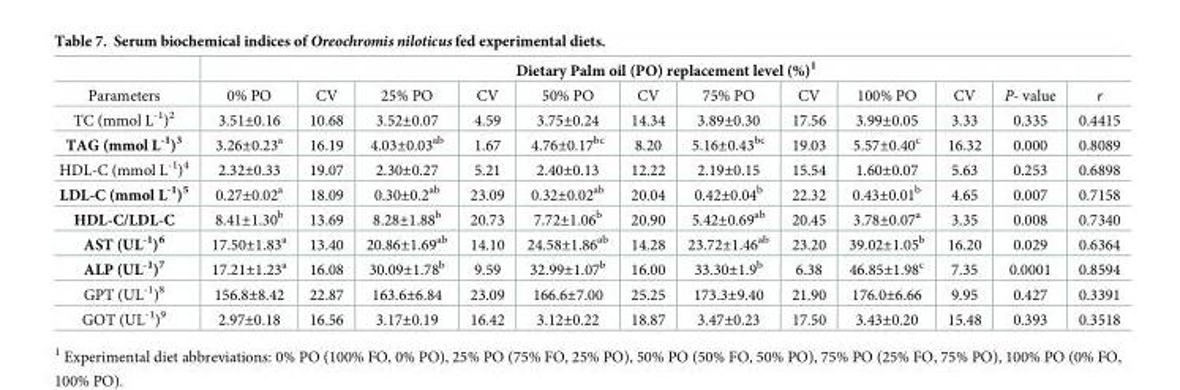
<table><thead><tr><td rowspan="2">Parameters</td><td colspan="12">Dietary Palm oil (PO) replacement level (%)<sup>1</sup></td></tr><tr><td>0% PO</td><td>CV</td><td>25% PO</td><td>CV</td><td>50% PO</td><td>CV</td><td>75% PO</td><td>CV</td><td>100% PO</td><td>CV</td><td>P- value</td><td>r</td></tr></thead><tbody><tr><td>TC (mmol L<sup>-1</sup>)<sup>2</sup></td><td>3.51±0.16</td><td>10.68</td><td>3.52±0.07</td><td>4.59</td><td>3.75±0.24</td><td>14.34</td><td>3.89±0.30</td><td>17.56</td><td>3.99±0.05</td><td>3.33</td><td>0.335</td><td>0.4415</td></tr><tr><td>TAG (mmol L<sup>-1</sup>)<sup>3</sup></td><td>3.26±0.23<sup>a</sup></td><td>16.19</td><td>4.03±0.03<sup>ab</sup></td><td>1.67</td><td>4.76±0.17<sup>bc</sup></td><td>8.20</td><td>5.16±0.43<sup>bc</sup></td><td>19.03</td><td>5.57±0.40<sup>c</sup></td><td>16.32</td><td>0.000</td><td>0.8089</td></tr><tr><td>HDL-C (mmol L<sup>-1</sup>)<sup>4</sup></td><td>2.32±0.33</td><td>19.07</td><td>2.30±0.27</td><td>5.21</td><td>2.40±0.13</td><td>12.22</td><td>2.19±0.15</td><td>15.54</td><td>1.60±0.07</td><td>5.63</td><td>0.253</td><td>0.6898</td></tr><tr><td>LDL-C (mmol L<sup>-1</sup>)<sup>5</sup></td><td>0.27±0.02<sup>a</sup></td><td>18.09</td><td>0.30±0.2<sup>ab</sup></td><td>23.09</td><td>0.32±0.02<sup>ab</sup></td><td>20.04</td><td>0.42±0.04<sup>b</sup></td><td>22.32</td><td>0.43±0.01<sup>b</sup></td><td>4.65</td><td>0.007</td><td>0.7158</td></tr><tr><td>HDL-C/LDL-C</td><td>8.41±1.30<sup>b</sup></td><td>13.69</td><td>8.28±1.88<sup>b</sup></td><td>20.73</td><td>7.72±1.06<sup>b</sup></td><td>20.90</td><td>5.42±0.69<sup>ab</sup></td><td>20.45</td><td>3.78±0.07<sup>a</sup></td><td>3.35</td><td>0.008</td><td>0.7340</td></tr><tr><td>AST (UL<sup>-1</sup>)<sup>6</sup></td><td>17.50±1.83<sup>a</sup></td><td>13.40</td><td>20.86±1.69<sup>ab</sup></td><td>14.10</td><td>24.58±1.86<sup>ab</sup></td><td>14.28</td><td>23.72±1.46<sup>ab</sup></td><td>23.20</td><td>39.02±1.05<sup>b</sup></td><td>16.20</td><td>0.029</td><td>0.6364</td></tr><tr><td>ALP (UL<sup>-1</sup>)<sup>7</sup></td><td>17.21±1.23<sup>a</sup></td><td>16.08</td><td>30.09±1.78<sup>b</sup></td><td>9.59</td><td>32.99±1.07<sup>b</sup></td><td>16.00</td><td>33.30±1.9<sup>b</sup></td><td>6.38</td><td>46.85±1.98<sup>c</sup></td><td>7.35</td><td>0.0001</td><td>0.8594</td></tr><tr><td>GPT (UL<sup>-1</sup>)<sup>8</sup></td><td>156.8±8.42</td><td>22.87</td><td>163.6±6.84</td><td>23.09</td><td>166.6±7.00</td><td>25.25</td><td>173.3±9.40</td><td>21.90</td><td>176.0±6.66</td><td>9.95</td><td>0.427</td><td>0.3391</td></tr><tr><td>GOT (UL<sup>-1</sup>)<sup>9</sup></td><td>2.97±0.18</td><td>16.56</td><td>3.17±0.19</td><td>16.42</td><td>3.12±0.22</td><td>18.87</td><td>3.47±0.23</td><td>17.50</td><td>3.43±0.20</td><td>15.48</td><td>0.393</td><td>0.3518</td></tr></tbody></table>